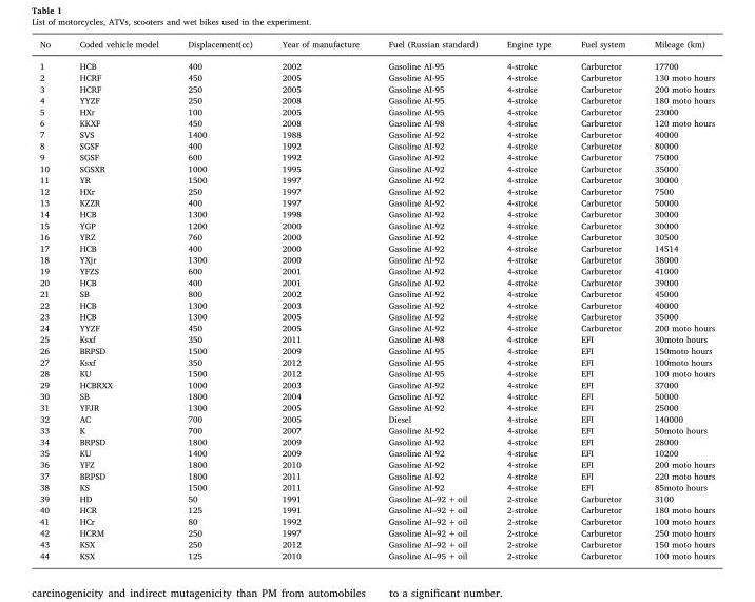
<table><thead><tr><td>No</td><td>Coded vehicle model</td><td>Displacement(cc)</td><td>Year of manufacture</td><td>Fuel (Russian standard)</td><td>Engine type</td><td>Fuel system</td><td>Mileage (km)</td></tr></thead><tbody><tr><td>1</td><td>HCB</td><td>400</td><td>2002</td><td>Gasoline AI-95</td><td>4-stroke</td><td>Carburetor</td><td>17700</td></tr><tr><td>2</td><td>HCRF</td><td>450</td><td>2005</td><td>Gasoline AI-95</td><td>4-stroke</td><td>Carburetor</td><td>130 moto hours</td></tr><tr><td>3</td><td>HCRF</td><td>250</td><td>2005</td><td>Gasoline AI-95</td><td>4-stroke</td><td>Carburetor</td><td>200 moto hours</td></tr><tr><td>4</td><td>YYZF</td><td>250</td><td>2008</td><td>Gasoline AI-95</td><td>4-stroke</td><td>Carburetor</td><td>180 moto hours</td></tr><tr><td>5</td><td>HXr</td><td>100</td><td>2005</td><td>Gasoline AI-95</td><td>4-stroke</td><td>Carburetor</td><td>23000</td></tr><tr><td>6</td><td>KKXF</td><td>450</td><td>2008</td><td>Gasoline AI-98</td><td>4-stroke</td><td>Carburetor</td><td>120 moto hours</td></tr><tr><td>7</td><td>SVS</td><td>1400</td><td>1988</td><td>Gasoline AI-92</td><td>4-stroke</td><td>Carburetor</td><td>40000</td></tr><tr><td>8</td><td>SGSF</td><td>400</td><td>1992</td><td>Gasoline AI-92</td><td>4-stroke</td><td>Carburetor</td><td>80000</td></tr><tr><td>9</td><td>SGSF</td><td>600</td><td>1992</td><td>Gasoline AI-92</td><td>4-stroke</td><td>Carburetor</td><td>75000</td></tr><tr><td>10</td><td>SGSXR</td><td>1000</td><td>1995</td><td>Gasoline AI-92</td><td>4-stroke</td><td>Carburetor</td><td>35000</td></tr><tr><td>11</td><td>YR</td><td>1500</td><td>1997</td><td>Gasoline AI-92</td><td>4-stroke</td><td>Carburetor</td><td>30000</td></tr><tr><td>12</td><td>HXr</td><td>250</td><td>1997</td><td>Gasoline AI-92</td><td>4-stroke</td><td>Carburetor</td><td>7500</td></tr><tr><td>13</td><td>KZZR</td><td>400</td><td>1997</td><td>Gasoline AI-92</td><td>4-stroke</td><td>Carburetor</td><td>50000</td></tr><tr><td>14</td><td>HCB</td><td>1300</td><td>1998</td><td>Gasoline AI-92</td><td>4-stroke</td><td>Carburetor</td><td>30000</td></tr><tr><td>15</td><td>YGP</td><td>1200</td><td>2000</td><td>Gasoline AI-92</td><td>4-stroke</td><td>Carburetor</td><td>30000</td></tr><tr><td>16</td><td>YRZ</td><td>760</td><td>2000</td><td>Gasoline AI-92</td><td>4-stroke</td><td>Carburetor</td><td>30500</td></tr><tr><td>17</td><td>HCB</td><td>400</td><td>2000</td><td>Gasoline AI-92</td><td>4-stroke</td><td>Carburetor</td><td>14514</td></tr><tr><td>18</td><td>YXjr</td><td>1300</td><td>2000</td><td>Gasoline AI-92</td><td>4-stroke</td><td>Carburetor</td><td>38000</td></tr><tr><td>19</td><td>YFZS</td><td>600</td><td>2001</td><td>Gasoline AI-92</td><td>4-stroke</td><td>Carburetor</td><td>41000</td></tr><tr><td>20</td><td>HCB</td><td>400</td><td>2001</td><td>Gasoline AI-92</td><td>4-stroke</td><td>Carburetor</td><td>39000</td></tr><tr><td>21</td><td>SB</td><td>800</td><td>2002</td><td>Gasoline AI-92</td><td>4-stroke</td><td>Carburetor</td><td>45000</td></tr><tr><td>22</td><td>HCB</td><td>1300</td><td>2003</td><td>Gasoline AI-92</td><td>4-stroke</td><td>Carburetor</td><td>40000</td></tr><tr><td>23</td><td>HCB</td><td>1300</td><td>2005</td><td>Gasoline AI-92</td><td>4-stroke</td><td>Carburetor</td><td>35000</td></tr><tr><td>24</td><td>YYZF</td><td>450</td><td>2005</td><td>Gasoline AI-92</td><td>4-stroke</td><td>Carburetor</td><td>200 moto hours</td></tr><tr><td>25</td><td>Ksxf</td><td>350</td><td>2011</td><td>Gasoline AI-98</td><td>4-stroke</td><td>EFI</td><td>30moto hours</td></tr><tr><td>26</td><td>BRPSD</td><td>1500</td><td>2009</td><td>Gasoline AI-95</td><td>4-stroke</td><td>EFI</td><td>150moto hours</td></tr><tr><td>27</td><td>Ksxf</td><td>350</td><td>2012</td><td>Gasoline AI-95</td><td>4-stroke</td><td>EFI</td><td>100moto hours</td></tr><tr><td>28</td><td>KU</td><td>1500</td><td>2012</td><td>Gasoline AI-95</td><td>4-stroke</td><td>EFI</td><td>100 moto hours</td></tr><tr><td>29</td><td>HCBRXX</td><td>1000</td><td>2003</td><td>Gasoline AI-92</td><td>4-stroke</td><td>EFI</td><td>37000</td></tr><tr><td>30</td><td>SB</td><td>1800</td><td>2004</td><td>Gasoline AI-92</td><td>4-stroke</td><td>EFI</td><td>50000</td></tr><tr><td>31</td><td>YFJR</td><td>1300</td><td>2005</td><td>Gasoline AI-92</td><td>4-stroke</td><td>EFI</td><td>25000</td></tr><tr><td>32</td><td>AC</td><td>700</td><td>2005</td><td>Diesel</td><td>4-stroke</td><td>EFI</td><td>140000</td></tr><tr><td>33</td><td>K</td><td>700</td><td>2007</td><td>Gasoline AI-92</td><td>4-stroke</td><td>EFI</td><td>50moto hours</td></tr><tr><td>34</td><td>BRPSD</td><td>1800</td><td>2009</td><td>Gasoline AI-92</td><td>4-stroke</td><td>EFI</td><td>28000</td></tr><tr><td>35</td><td>KU</td><td>1400</td><td>2009</td><td>Gasoline AI-92</td><td>4-stroke</td><td>EFI</td><td>10200</td></tr><tr><td>36</td><td>YFZ</td><td>1800</td><td>2010</td><td>Gasoline AI-92</td><td>4-stroke</td><td>EFI</td><td>200 moto hours</td></tr><tr><td>37</td><td>BRPSD</td><td>1800</td><td>2011</td><td>Gasoline AI-92</td><td>4-stroke</td><td>EFI</td><td>220 moto hours</td></tr><tr><td>38</td><td>KS</td><td>1500</td><td>2011</td><td>Gasoline AI-92</td><td>4-stroke</td><td>EFI</td><td>85moto hours</td></tr><tr><td>39</td><td>HD</td><td>50</td><td>1991</td><td>Gasoline AI–92 + oil</td><td>2-stroke</td><td>Carburetor</td><td>3100</td></tr><tr><td>40</td><td>HCR</td><td>125</td><td>1991</td><td>Gasoline AI–92 + oil</td><td>2-stroke</td><td>Carburetor</td><td>180 moto hours</td></tr><tr><td>41</td><td>HCr</td><td>80</td><td>1992</td><td>Gasoline AI–92 + oil</td><td>2-stroke</td><td>Carburetor</td><td>100 moto hours</td></tr><tr><td>42</td><td>HCRM</td><td>250</td><td>1997</td><td>Gasoline AI–92 + oil</td><td>2-stroke</td><td>Carburetor</td><td>250 moto hours</td></tr><tr><td>43</td><td>KSX</td><td>250</td><td>2012</td><td>Gasoline AI–92 + oil</td><td>2-stroke</td><td>Carburetor</td><td>150 moto hours</td></tr><tr><td>44</td><td>KSX</td><td>125</td><td>2010</td><td>Gasoline AI–95 + oil</td><td>2-stroke</td><td>Carburetor</td><td>100 moto hours</td></tr></tbody></table>